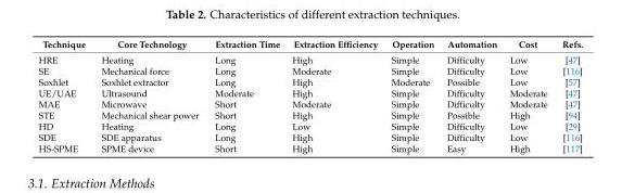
<table><thead><tr><td>Technique</td><td>Core Technology</td><td>Extraction Time</td><td>Extraction Efficiency</td><td>Operation</td><td>Automation</td><td>Cost</td><td>Refs.</td></tr></thead><tbody><tr><td>HRE</td><td>Heating</td><td>Long</td><td>High</td><td>Simple</td><td>Difficulty</td><td>Low</td><td>[47]</td></tr><tr><td>SE</td><td>Mechanical force</td><td>Long</td><td>Moderate</td><td>Simple</td><td>Difficulty</td><td>Low</td><td>[116]</td></tr><tr><td>Soxhlet</td><td>Soxhlet extractor</td><td>Long</td><td>High</td><td>Moderate</td><td>Possible</td><td>Low</td><td>[57]</td></tr><tr><td>UE/UAE</td><td>Ultrasound</td><td>Moderate</td><td>High</td><td>Simple</td><td>Difficulty</td><td>Moderate</td><td>[47]</td></tr><tr><td>MAE</td><td>Microwave</td><td>Short</td><td>Moderate</td><td>Simple</td><td>Difficulty</td><td>Moderate</td><td>[47]</td></tr><tr><td>STE</td><td>Mechanical shear power</td><td>Short</td><td>High</td><td>Simple</td><td>Possible</td><td>High</td><td>[94]</td></tr><tr><td>HD</td><td>Heating</td><td>Long</td><td>Low</td><td>Simple</td><td>Difficulty</td><td>Low</td><td>[29]</td></tr><tr><td>SDE</td><td>SDE apparatus</td><td>Long</td><td>High</td><td>Simple</td><td>Difficulty</td><td>Low</td><td>[116]</td></tr><tr><td>HS-SPME</td><td>SPME device</td><td>Short</td><td>High</td><td>Simple</td><td>Easy</td><td>High</td><td>[117]</td></tr></tbody></table>